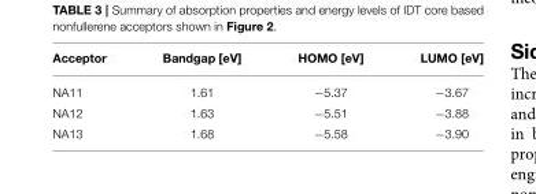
<table><thead><tr><td>Acceptor</td><td>Bandgap [eV]</td><td>HOMO [eV]</td><td>LUMO [eV]</td></tr></thead><tbody><tr><td>NA11</td><td>1.61</td><td>−5.37</td><td>−3.67</td></tr><tr><td>NA12</td><td>1.63</td><td>−5.51</td><td>−3.88</td></tr><tr><td>NA13</td><td>1.68</td><td>−5.58</td><td>−3.90</td></tr></tbody></table>